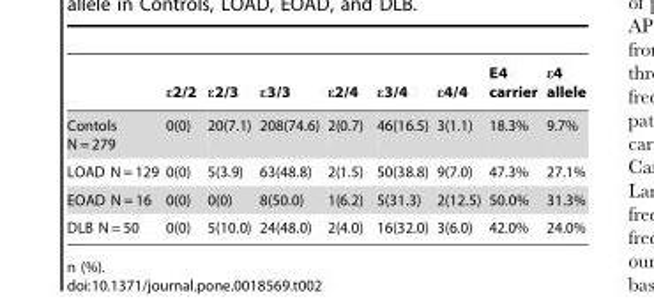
<table><thead><tr><td></td><td>ε2/2</td><td>ε2/3</td><td>ε3/3</td><td>ε2/4</td><td>ε3/4</td><td>ε4/4</td><td>E4 carrier</td><td>ε4 allele</td></tr></thead><tbody><tr><td>Contols N = 279</td><td>0(0)</td><td>20(7.1)</td><td>208(74.6)</td><td>2(0.7)</td><td>46(16.5)</td><td>3(1.1)</td><td>18.3%</td><td>9.7%</td></tr><tr><td>LOAD N = 129</td><td>0(0)</td><td>5(3.9)</td><td>63(48.8)</td><td>2(1.5)</td><td>50(38.8)</td><td>9(7.0)</td><td>47.3%</td><td>27.1%</td></tr><tr><td>EOAD N = 16</td><td>0(0)</td><td>0(0)</td><td>8(50.0)</td><td>1(6.2)</td><td>5(31.3)</td><td>2(12.5)</td><td>50.0%</td><td>31.3%</td></tr><tr><td>DLB N = 50</td><td>0(0)</td><td>5(10.0)</td><td>24(48.0)</td><td>2(4.0)</td><td>16(32.0)</td><td>3(6.0)</td><td>42.0%</td><td>24.0%</td></tr></tbody></table>